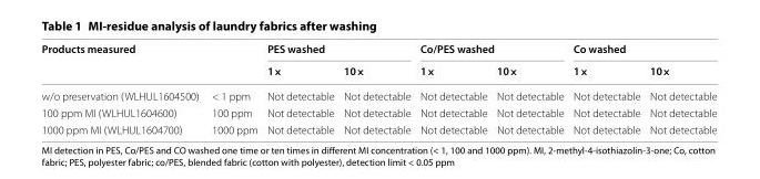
<table><thead><tr><td rowspan="2" colspan="2">Products measured</td><td colspan="2">PES washed</td><td colspan="2">Co/PES washed</td><td colspan="2">Co washed</td></tr><tr><td rowspan="2">1× Not detectable</td><td rowspan="2">10× Not detectable</td><td rowspan="2">1× Not detectable</td><td rowspan="2">10× Not detectable</td><td rowspan="2">1× Not detectable</td><td rowspan="2">10× Not detectable</td></tr><tr><td>w/o preservation (WLHUL1604500)</td><td>&lt; 1 ppm</td></tr></thead><tbody><tr><td>100 ppm MI (WLHUL1604600)</td><td>100 ppm</td><td>Not detectable</td><td>Not detectable</td><td>Not detectable</td><td>Not detectable</td><td>Not detectable</td><td>Not detectable</td></tr><tr><td>1000 ppm MI (WLHUL1604700)</td><td>1000 ppm</td><td>Not detectable</td><td>Not detectable</td><td>Not detectable</td><td>Not detectable</td><td>Not detectable</td><td>Not detectable</td></tr></tbody></table>